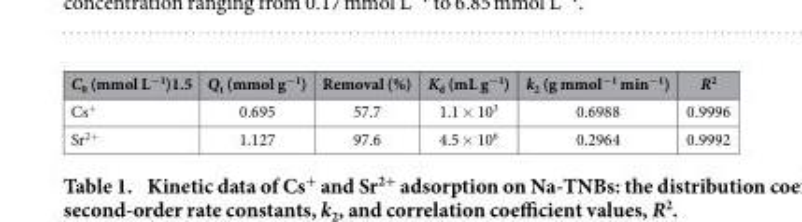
<table><thead><tr><td>C<sub>0</sub> (mmol L<sup>−1</sup>)1.5</td><td>Q<sub>t</sub> (mmol g<sup>−1</sup>)</td><td>Removal (%)</td><td>K<sub>d</sub> (mL g<sup>−1</sup>)</td><td>k<sub>2</sub> (g mmol<sup>−1</sup> min<sup>−1</sup>)</td><td>R<sup>2</sup></td></tr></thead><tbody><tr><td>Cs<sup>+</sup></td><td>0.695</td><td>57.7</td><td>1.1 × 10<sup>3</sup></td><td>0.6988</td><td>0.9996</td></tr><tr><td>Sr<sup>2+</sup></td><td>1.127</td><td>97.6</td><td>4.5 × 10<sup>6</sup></td><td>0.2964</td><td>0.9992</td></tr></tbody></table>